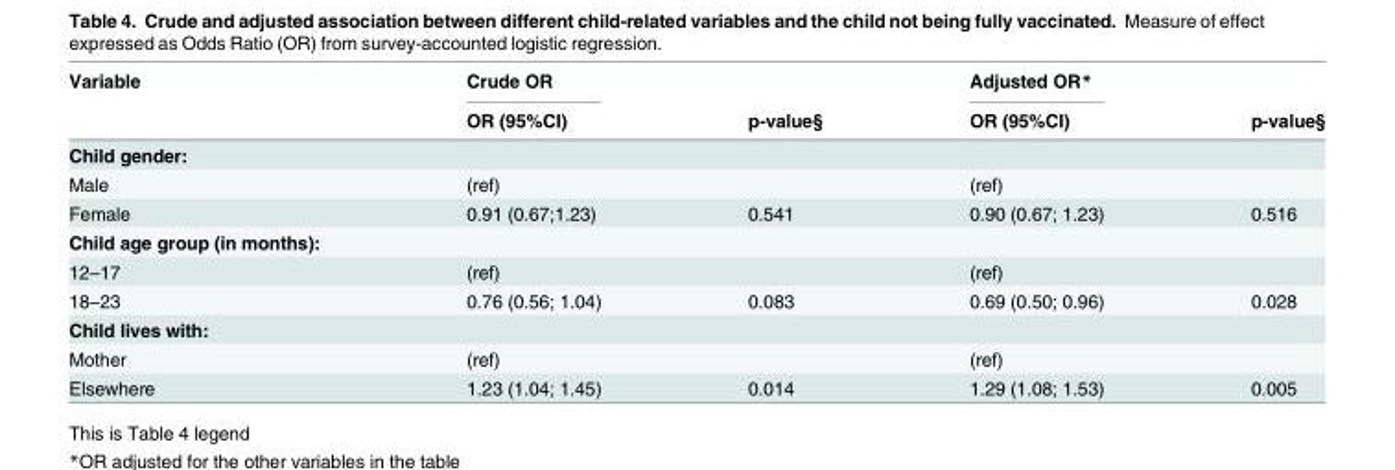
<table><thead><tr><td rowspan="2">Variable</td><td rowspan="2">Crude OR OR (95%CI)</td><td rowspan="2">p-value§</td><td rowspan="2">Adjusted OR* OR (95%CI)</td><td rowspan="2">p-value§</td></tr><tr></tr></thead><tbody><tr><td colspan="5">Child gender:</td></tr><tr><td>Male</td><td>(ref)</td><td></td><td>(ref)</td><td></td></tr><tr><td>Female</td><td>0.91 (0.67;1.23)</td><td>0.541</td><td>0.90 (0.67; 1.23)</td><td>0.516</td></tr><tr><td colspan="5">Child age group (in months):</td></tr><tr><td>12–17</td><td>(ref)</td><td></td><td>(ref)</td><td></td></tr><tr><td>18–23</td><td>0.76 (0.56; 1.04)</td><td>0.083</td><td>0.69 (0.50; 0.96)</td><td>0.028</td></tr><tr><td colspan="5">Child lives with:</td></tr><tr><td>Mother</td><td>(ref)</td><td></td><td>(ref)</td><td></td></tr><tr><td>Elsewhere</td><td>1.23 (1.04; 1.45)</td><td>0.014</td><td>1.29 (1.08; 1.53)</td><td>0.005</td></tr></tbody></table>